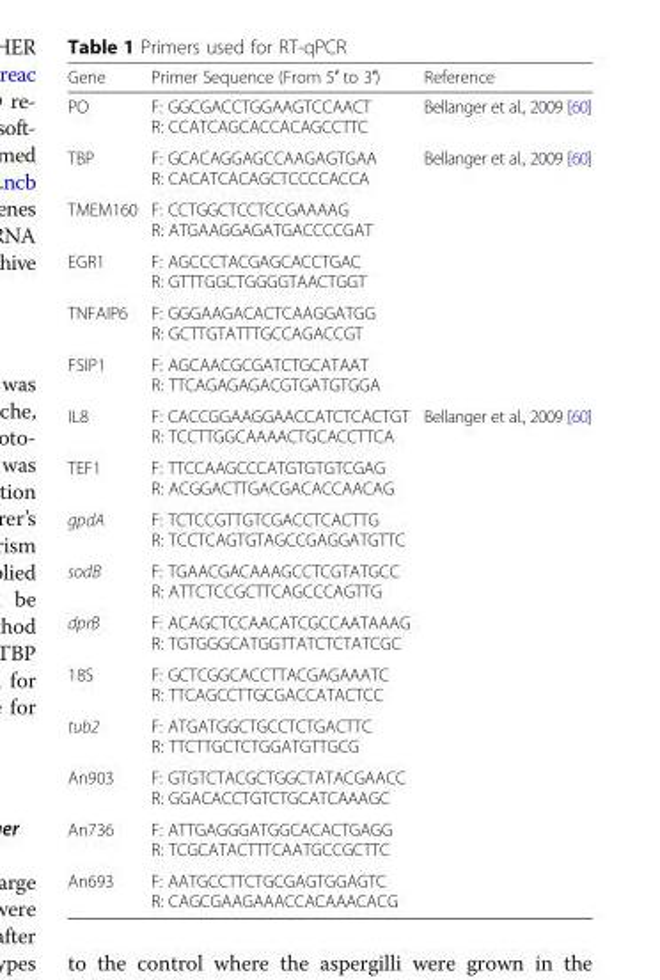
<table><thead><tr><td>Gene</td><td>Primer Sequence (From 5′ to 3′)</td><td>Reference</td></tr></thead><tbody><tr><td>PO</td><td>F: GGCGACCTGGAAGTCCAACT R: CCATCAGCACCACAGCCTTC</td><td>Bellanger et al., 2009 [60]</td></tr><tr><td>TBP</td><td>F: GCACAGGAGCCAAGAGTGAA R: CACATCACAGCTCCCCACCA</td><td>Bellanger et al., 2009 [60]</td></tr><tr><td>TMEM160</td><td>F: CCTGGCTCCTCCGAAAAG R: ATGAAGGAGATGACCCCGAT</td><td></td></tr><tr><td>EGR1</td><td>F: AGCCCTACGAGCACCTGAC R: GTTTGGCTGGGGTAACTGGT</td><td></td></tr><tr><td>TNFAIP6</td><td>F: GGGAAGACACTCAAGGATGG R: GCTTGTATTTGCCAGACCGT</td><td></td></tr><tr><td>FSIP1</td><td>F: AGCAACGCGATCTGCATAAT R: TTCAGAGAGACGTGATGTGGA</td><td></td></tr><tr><td>IL8</td><td>F: CACCGGAAGGAACCATCTCACTGT R: TCCTTGGCAAAACTGCACCTTCA</td><td>Bellanger et al., 2009 [60]</td></tr><tr><td>TEF1</td><td>F: TTCCAAGCCCATGTGTGTCGAG R: ACGGACTTGACGACACCAACAG</td><td></td></tr><tr><td>gpdA</td><td>F: TCTCCGTTGTCGACCTCACTTG R: TCCTCAGTGTAGCCGAGGATGTTC</td><td></td></tr><tr><td>sodB</td><td>F: TGAACGACAAAGCCTCGTATGCC R: ATTCTCCGCTTCAGCCCAGTTG</td><td></td></tr><tr><td>dprB</td><td>F: ACAGCTCCAACATCGCCAATAAAG R: TGTGGGCATGGTTATCTCTATCGC</td><td></td></tr><tr><td>18S</td><td>F: GCTCGGCACCTTACGAGAAATC R: TTCAGCCTTGCGACCATACTCC</td><td></td></tr><tr><td>tub2</td><td>F: ATGATGGCTGCCTCTGACTTC R: TTCTTGCTCTGGATGTTGCG</td><td></td></tr><tr><td>An903</td><td>F: GTGTCTACGCTGGCTATACGAACC R: GGACACCTGTCTGCATCAAAGC</td><td></td></tr><tr><td>An736</td><td>F: ATTGAGGGATGGCACACTGAGG R: TCGCATACTTTCAATGCCGCTTC</td><td></td></tr><tr><td>An693</td><td>F: AATGCCTTCTGCGAGTGGAGTC R: CAGCGAAGAAACCACAAACACG</td><td></td></tr></tbody></table>